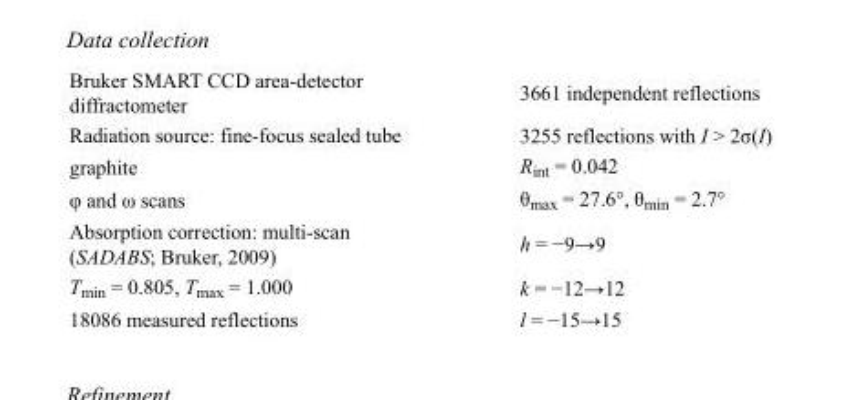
<table><tbody><tr><td>Bruker SMART CCD area-detector diffractometer</td><td>3661 independent reflections</td></tr><tr><td>Radiation source: fine-focus sealed tube</td><td>3255 reflections with I &gt; 2σ(I)</td></tr><tr><td>graphite</td><td>R<sub>int</sub> = 0.042</td></tr><tr><td>φ and ω scans</td><td>θ<sub>max</sub> = 27.6°, θ<sub>min</sub> = 2.7°</td></tr><tr><td>Absorption correction: multi-scan (SADABS; Bruker, 2009)</td><td>h = −9→9</td></tr><tr><td>T<sub>min</sub> = 0.805, T<sub>max</sub> = 1.000</td><td>k = −12→12</td></tr><tr><td>18086 measured reflections</td><td>l = −15→15</td></tr></tbody></table>